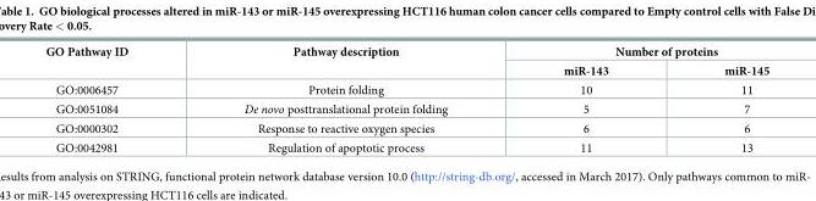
<table><thead><tr><td rowspan="2">GO Pathway ID</td><td rowspan="2">Pathway description</td><td colspan="2">Number of proteins</td></tr><tr><td>miR-143</td><td>miR-145</td></tr></thead><tbody><tr><td>GO:0006457</td><td>Protein folding</td><td>10</td><td>11</td></tr><tr><td>GO:0051084</td><td>De novo posttranslational protein folding</td><td>5</td><td>7</td></tr><tr><td>GO:0000302</td><td>Response to reactive oxygen species</td><td>6</td><td>6</td></tr><tr><td>GO:0042981</td><td>Regulation of apoptotic process</td><td>11</td><td>13</td></tr></tbody></table>